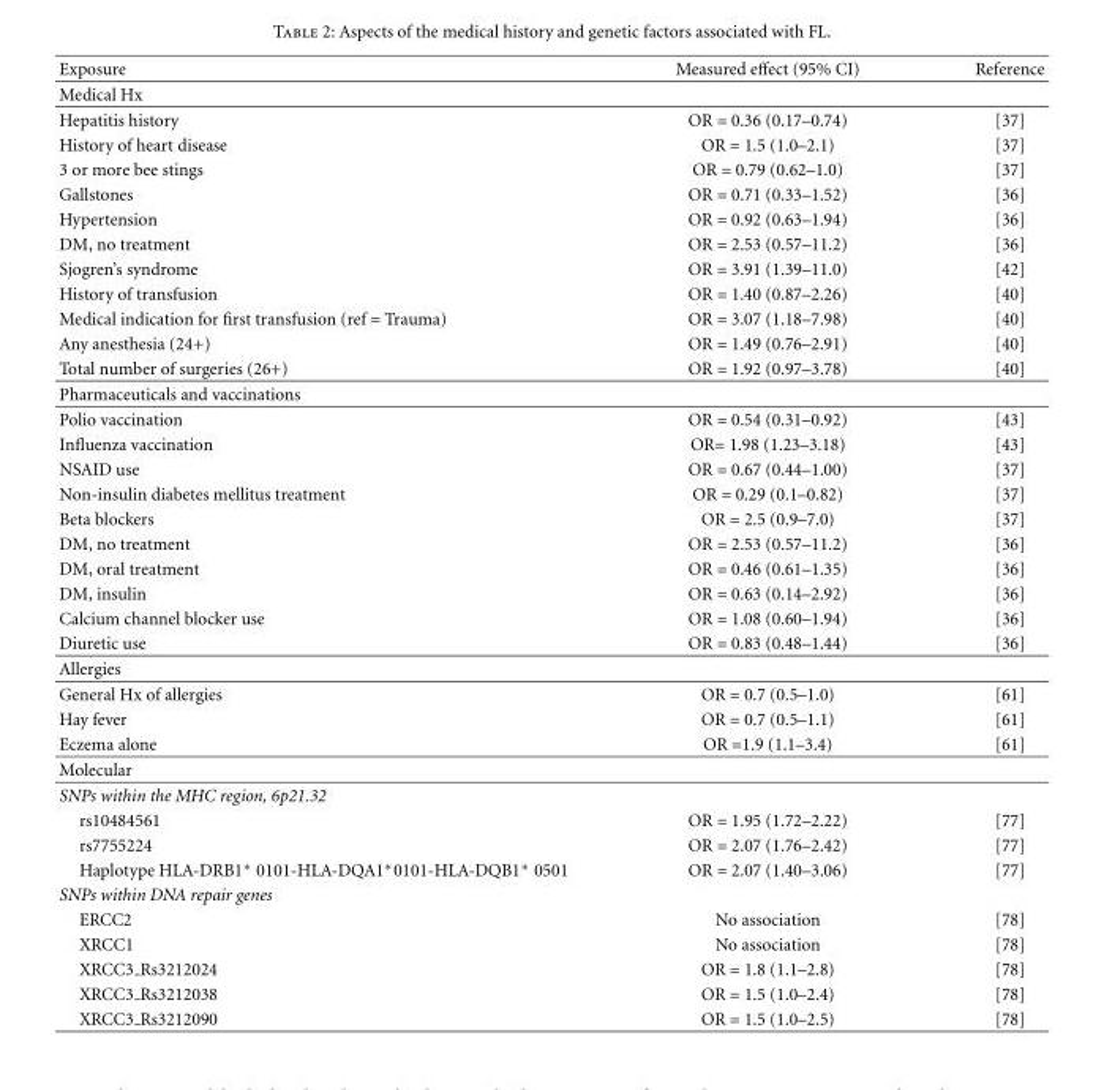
<table><thead><tr><td>Exposure</td><td>Measured effect (95% CI)</td><td>Reference</td></tr></thead><tbody><tr><td colspan="3">Medical Hx</td></tr><tr><td>Hepatitis history</td><td>OR = 0.36 (0.17–0.74)</td><td>[37]</td></tr><tr><td>History of heart disease</td><td>OR = 1.5 (1.0–2.1)</td><td>[37]</td></tr><tr><td>3 or more bee stings</td><td>OR = 0.79 (0.62–1.0)</td><td>[37]</td></tr><tr><td>Gallstones</td><td>OR = 0.71 (0.33–1.52)</td><td>[36]</td></tr><tr><td>Hypertension</td><td>OR = 0.92 (0.63–1.94)</td><td>[36]</td></tr><tr><td>DM, no treatment</td><td>OR = 2.53 (0.57–11.2)</td><td>[36]</td></tr><tr><td>Sjogren’s syndrome</td><td>OR = 3.91 (1.39–11.0)</td><td>[42]</td></tr><tr><td>History of transfusion</td><td>OR = 1.40 (0.87–2.26)</td><td>[40]</td></tr><tr><td>Medical indication for first transfusion (ref = Trauma)</td><td>OR = 3.07 (1.18–7.98)</td><td>[40]</td></tr><tr><td>Any anesthesia (24+)</td><td>OR = 1.49 (0.76–2.91)</td><td>[40]</td></tr><tr><td>Total number of surgeries (26+)</td><td>OR = 1.92 (0.97–3.78)</td><td>[40]</td></tr><tr><td colspan="3">Pharmaceuticals and vaccinations</td></tr><tr><td>Polio vaccination</td><td>OR = 0.54 (0.31–0.92)</td><td>[43]</td></tr><tr><td>Influenza vaccination</td><td>OR= 1.98 (1.23–3.18)</td><td>[43]</td></tr><tr><td>NSAID use</td><td>OR = 0.67 (0.44–1.00)</td><td>[37]</td></tr><tr><td>Non-insulin diabetes mellitus treatment</td><td>OR = 0.29 (0.1–0.82)</td><td>[37]</td></tr><tr><td>Beta blockers</td><td>OR = 2.5 (0.9–7.0)</td><td>[37]</td></tr><tr><td>DM, no treatment</td><td>OR = 2.53 (0.57–11.2)</td><td>[36]</td></tr><tr><td>DM, oral treatment</td><td>OR = 0.46 (0.61–1.35)</td><td>[36]</td></tr><tr><td>DM, insulin</td><td>OR = 0.63 (0.14–2.92)</td><td>[36]</td></tr><tr><td>Calcium channel blocker use</td><td>OR = 1.08 (0.60–1.94)</td><td>[36]</td></tr><tr><td>Diuretic use</td><td>OR = 0.83 (0.48–1.44)</td><td>[36]</td></tr><tr><td colspan="3">Allergies</td></tr><tr><td>General Hx of allergies</td><td>OR = 0.7 (0.5–1.0)</td><td>[61]</td></tr><tr><td>Hay fever</td><td>OR = 0.7 (0.5–1.1)</td><td>[61]</td></tr><tr><td>Eczema alone</td><td>OR =1.9 (1.1–3.4)</td><td>[61]</td></tr><tr><td colspan="3">Molecular</td></tr><tr><td colspan="3">SNPs within the MHC region, 6p21.32</td></tr><tr><td>rs10484561</td><td>OR = 1.95 (1.72–2.22)</td><td>[77]</td></tr><tr><td>rs7755224</td><td>OR = 2.07 (1.76–2.42)</td><td>[77]</td></tr><tr><td>Haplotype HLA-DRB1∗ 0101-HLA-DQA1∗0101-HLA-DQB1∗ 0501</td><td>OR = 2.07 (1.40–3.06)</td><td>[77]</td></tr><tr><td colspan="3">SNPs within DNA repair genes</td></tr><tr><td>ERCC2</td><td>No association</td><td>[78]</td></tr><tr><td>XRCC1</td><td>No association</td><td>[78]</td></tr><tr><td>XRCC3 Rs3212024</td><td>OR = 1.8 (1.1–2.8)</td><td>[78]</td></tr><tr><td>XRCC3 Rs3212038</td><td>OR = 1.5 (1.0–2.4)</td><td>[78]</td></tr><tr><td>XRCC3 Rs3212090</td><td>OR = 1.5 (1.0–2.5)</td><td>[78]</td></tr></tbody></table>